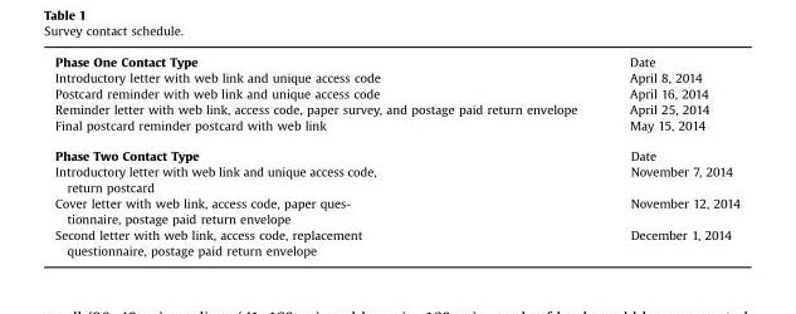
<table><thead><tr><td>Phase One Contact Type</td><td>Date</td></tr></thead><tbody><tr><td>Introductory letter with web link and unique access code</td><td>April 8, 2014</td></tr><tr><td>Postcard reminder with web link and unique access code</td><td>April 16, 2014</td></tr><tr><td>Reminder letter with web link, access code, paper survey, and postage paid return envelope</td><td>April 25, 2014</td></tr><tr><td>Final postcard reminder postcard with web link</td><td>May 15, 2014</td></tr><tr><td>Phase Two Contact Type</td><td>Date</td></tr><tr><td>Introductory letter with web link and unique access code, return postcard</td><td>November 7, 2014</td></tr><tr><td>Cover letter with web link, access code, paper ques- tionnaire, postage paid return envelope</td><td>November 12, 2014</td></tr><tr><td>Second letter with web link, access code, replacement questionnaire, postage paid return envelope</td><td>December 1, 2014</td></tr></tbody></table>